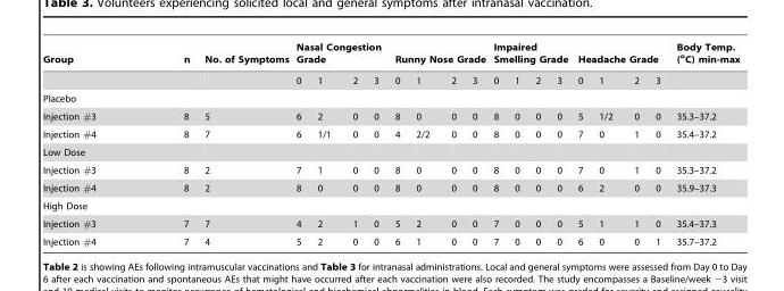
<table><thead><tr><td rowspan="2">Group</td><td rowspan="2">n</td><td rowspan="2">No. of Symptoms</td><td colspan="4">Nasal Congestion Grade</td><td colspan="4">Runny Nose Grade</td><td colspan="4">Impaired Smelling Grade</td><td colspan="4">Headache Grade</td><td rowspan="2">Body Temp. (<sup>o</sup>C) min-max</td></tr><tr><td>0</td><td>1</td><td>2</td><td>3</td><td>0</td><td>1</td><td>2</td><td>3</td><td>0</td><td>1</td><td>2</td><td>3</td><td>0</td><td>1</td><td>2</td><td>3</td></tr></thead><tbody><tr><td colspan="20">Placebo</td></tr><tr><td>Injection #3</td><td>8</td><td>5</td><td>6</td><td>2</td><td>0</td><td>0</td><td>8</td><td>0</td><td>0</td><td>0</td><td>8</td><td>0</td><td>0</td><td>0</td><td>5</td><td>1/2</td><td>0</td><td>0</td><td>35.3–37.2</td></tr><tr><td>Injection #4</td><td>8</td><td>7</td><td>6</td><td>1/1</td><td>0</td><td>0</td><td>4</td><td>2/2</td><td>0</td><td>0</td><td>8</td><td>0</td><td>0</td><td>0</td><td>7</td><td>0</td><td>1</td><td>0</td><td>35.4–37.2</td></tr><tr><td colspan="20">Low Dose</td></tr><tr><td>Injection #3</td><td>8</td><td>2</td><td>7</td><td>1</td><td>0</td><td>0</td><td>8</td><td>0</td><td>0</td><td>0</td><td>8</td><td>0</td><td>0</td><td>0</td><td>7</td><td>0</td><td>1</td><td>0</td><td>35.3–37.2</td></tr><tr><td>Injection #4</td><td>8</td><td>2</td><td>8</td><td>0</td><td>0</td><td>0</td><td>8</td><td>0</td><td>0</td><td>0</td><td>8</td><td>0</td><td>0</td><td>0</td><td>6</td><td>2</td><td>0</td><td>0</td><td>35.9–37.3</td></tr><tr><td colspan="20">High Dose</td></tr><tr><td>Injection #3</td><td>7</td><td>7</td><td>4</td><td>2</td><td>1</td><td>0</td><td>5</td><td>2</td><td>0</td><td>0</td><td>7</td><td>0</td><td>0</td><td>0</td><td>5</td><td>1</td><td>1</td><td>0</td><td>35.4–37.3</td></tr><tr><td>Injection #4</td><td>7</td><td>4</td><td>5</td><td>2</td><td>0</td><td>0</td><td>6</td><td>1</td><td>0</td><td>0</td><td>7</td><td>0</td><td>0</td><td>0</td><td>6</td><td>0</td><td>0</td><td>1</td><td>35.7–37.2</td></tr></tbody></table>